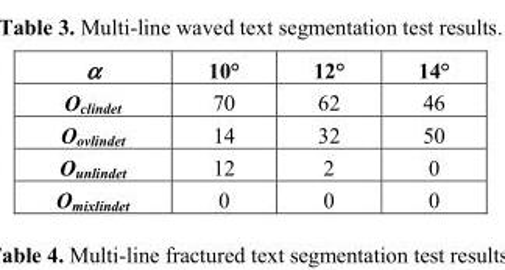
<table><thead><tr><td>α</td><td>10°</td><td>12°</td><td>14°</td></tr></thead><tbody><tr><td>O<sub>clindet</sub></td><td>70</td><td>62</td><td>46</td></tr><tr><td>O<sub>ovlindet</sub></td><td>14</td><td>32</td><td>50</td></tr><tr><td>O<sub>unlindet</sub></td><td>12</td><td>2</td><td>0</td></tr><tr><td>O<sub>mixlindet</sub></td><td>0</td><td>0</td><td>0</td></tr></tbody></table>